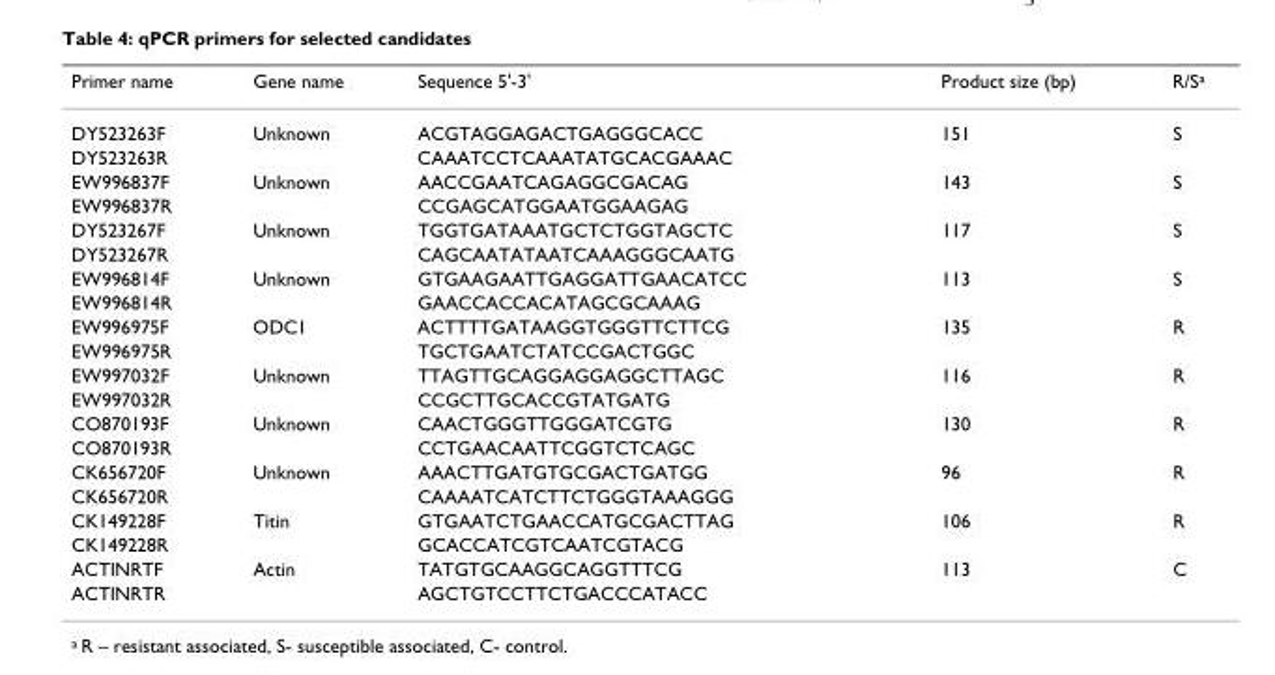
<table><thead><tr><td>Primer name</td><td>Gene name</td><td>Sequence 5&#x27;-3&#x27;</td><td>Product size (bp)</td><td>R/S<sup>a</sup></td></tr></thead><tbody><tr><td>DY523263F</td><td>Unknown</td><td>ACGTAGGAGACTGAGGGCACC</td><td>151</td><td>S</td></tr><tr><td>DY523263R</td><td></td><td>CAAATCCTCAAATATGCACGAAAC</td><td></td><td></td></tr><tr><td>EW996837F</td><td>Unknown</td><td>AACCGAATCAGAGGCGACAG</td><td>143</td><td>S</td></tr><tr><td>EW996837R</td><td></td><td>CCGAGCATGGAATGGAAGAG</td><td></td><td></td></tr><tr><td>DY523267F</td><td>Unknown</td><td>TGGTGATAAATGCTCTGGTAGCTC</td><td>117</td><td>S</td></tr><tr><td>DY523267R</td><td></td><td>CAGCAATATAATCAAAGGGCAATG</td><td></td><td></td></tr><tr><td>EW996814F</td><td>Unknown</td><td>GTGAAGAATTGAGGATTGAACATCC</td><td>113</td><td>S</td></tr><tr><td>EW996814R</td><td></td><td>GAACCACCACATAGCGCAAAG</td><td></td><td></td></tr><tr><td>EW996975F</td><td>ODC1</td><td>ACTTTTGATAAGGTGGGTTCTTCG</td><td>135</td><td>R</td></tr><tr><td>EW996975R</td><td></td><td>TGCTGAATCTATCCGACTGGC</td><td></td><td></td></tr><tr><td>EW997032F</td><td>Unknown</td><td>TTAGTTGCAGGAGGAGGCTTAGC</td><td>116</td><td>R</td></tr><tr><td>EW997032R</td><td></td><td>CCGCTTGCACCGTATGATG</td><td></td><td></td></tr><tr><td>CO870193F</td><td>Unknown</td><td>CAACTGGGTTGGGATCGTG</td><td>130</td><td>R</td></tr><tr><td>CO870193R</td><td></td><td>CCTGAACAATTCGGTCTCAGC</td><td></td><td></td></tr><tr><td>CK656720F</td><td>Unknown</td><td>AAACTTGATGTGCGACTGATGG</td><td>96</td><td>R</td></tr><tr><td>CK656720R</td><td></td><td>CAAAATCATCTTCTGGGTAAAGGG</td><td></td><td></td></tr><tr><td>CK149228F</td><td>Titin</td><td>GTGAATCTGAACCATGCGACTTAG</td><td>106</td><td>R</td></tr><tr><td>CK149228R</td><td></td><td>GCACCATCGTCAATCGTACG</td><td></td><td></td></tr><tr><td>ACTINRTF</td><td>Actin</td><td>TATGTGCAAGGCAGGTTTCG</td><td>113</td><td>C</td></tr><tr><td>ACTINRTR</td><td></td><td>AGCTGTCCTTCTGACCCATACC</td><td></td><td></td></tr></tbody></table>